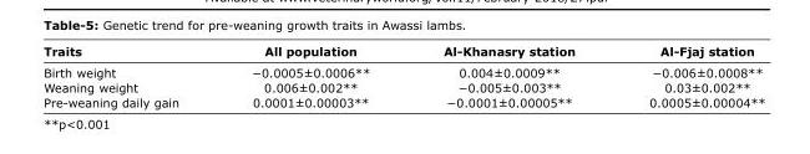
<table><thead><tr><td>Traits</td><td>All population</td><td>Al-Khanasry station</td><td>Al-Fjaj station</td></tr></thead><tbody><tr><td>Birth weight</td><td>−0.0005±0.0006**</td><td>0.004±0.0009**</td><td>−0.006±0.0008**</td></tr><tr><td>Weaning weight</td><td>0.006±0.002**</td><td>−0.005±0.003**</td><td>0.03±0.002**</td></tr><tr><td>Pre-weaning daily gain</td><td>0.0001±0.00003**</td><td>−0.0001±0.00005**</td><td>0.0005±0.00004**</td></tr></tbody></table>